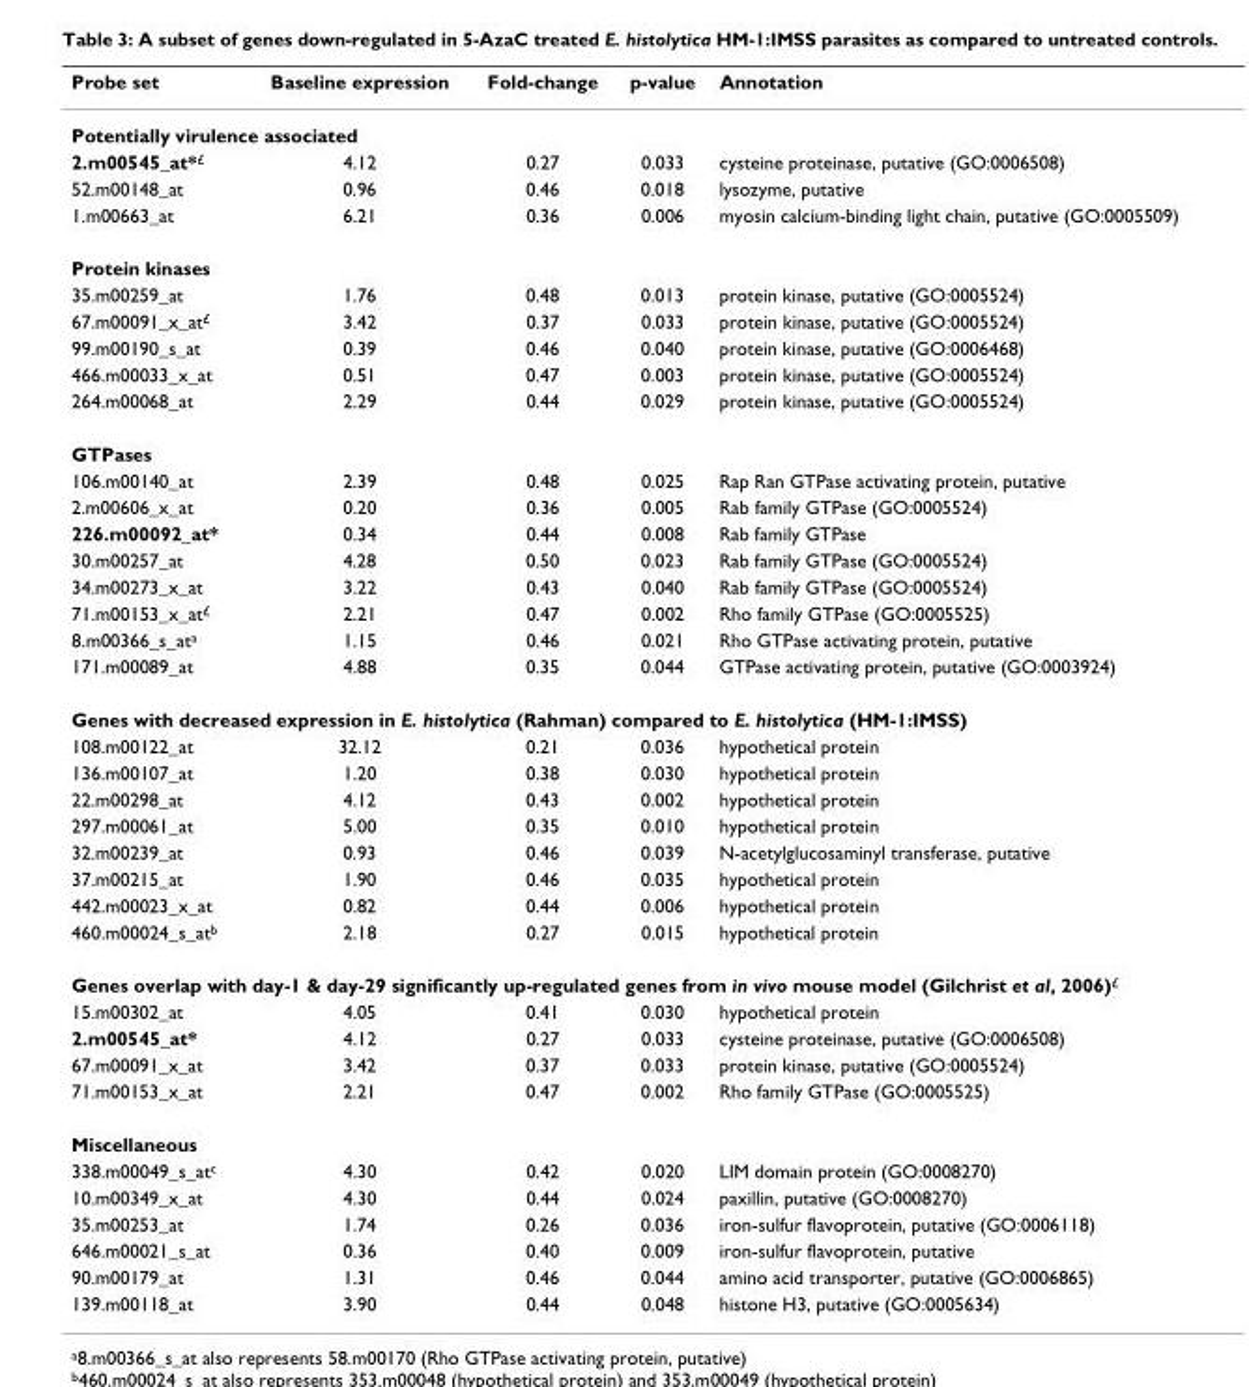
<table><thead><tr><td>Probe set</td><td>Baseline expression</td><td>Fold-change</td><td>p-value</td><td>Annotation</td></tr></thead><tbody><tr><td colspan="5">Potentially virulence associated</td></tr><tr><td>2.m00545_at*£</td><td>4.12</td><td>0.27</td><td>0.033</td><td>cysteine proteinase, putative (GO:0006508)</td></tr><tr><td>52.m00148_at</td><td>0.96</td><td>0.46</td><td>0.018</td><td>lysozyme, putative</td></tr><tr><td>1.m00663_at</td><td>6.21</td><td>0.36</td><td>0.006</td><td>myosin calcium-binding light chain, putative (GO:0005509)</td></tr><tr><td colspan="5">Protein kinases</td></tr><tr><td>35.m00259_at</td><td>1.76</td><td>0.48</td><td>0.013</td><td>protein kinase, putative (GO:0005524)</td></tr><tr><td>67.m00091_x_at£</td><td>3.42</td><td>0.37</td><td>0.033</td><td>protein kinase, putative (GO:0005524)</td></tr><tr><td>99.m00190_s_at</td><td>0.39</td><td>0.46</td><td>0.040</td><td>protein kinase, putative (GO:0006468)</td></tr><tr><td>466.m00033_x_at</td><td>0.51</td><td>0.47</td><td>0.003</td><td>protein kinase, putative (GO:0005524)</td></tr><tr><td>264.m00068_at</td><td>2.29</td><td>0.44</td><td>0.029</td><td>protein kinase, putative (GO:0005524)</td></tr><tr><td colspan="5">GTPases</td></tr><tr><td>106.m00140_at</td><td>2.39</td><td>0.48</td><td>0.025</td><td>Rap Ran GTPase activating protein, putative</td></tr><tr><td>2.m00606_x_at</td><td>0.20</td><td>0.36</td><td>0.005</td><td>Rab family GTPase (GO:0005524)</td></tr><tr><td>226.m00092_at*</td><td>0.34</td><td>0.44</td><td>0.008</td><td>Rab family GTPase</td></tr><tr><td>30.m00257_at</td><td>4.28</td><td>0.50</td><td>0.023</td><td>Rab family GTPase (GO:0005524)</td></tr><tr><td>34.m00273_x_at</td><td>3.22</td><td>0.43</td><td>0.040</td><td>Rab family GTPase (GO:0005524)</td></tr><tr><td>71.m00153_x_at£</td><td>2.21</td><td>0.47</td><td>0.002</td><td>Rho family GTPase (GO:0005525)</td></tr><tr><td>8.m00366_s_ata</td><td>1.15</td><td>0.46</td><td>0.021</td><td>Rho GTPase activating protein, putative</td></tr><tr><td>171.m00089_at</td><td>4.88</td><td>0.35</td><td>0.044</td><td>GTPase activating protein, putative (GO:0003924)</td></tr><tr><td colspan="5">Genes with decreased expression in E. histolytica (Rahman) compared to E. histolytica (HM-1:IMSS)</td></tr><tr><td>108.m00122_at</td><td>32.12</td><td>0.21</td><td>0.036</td><td>hypothetical protein</td></tr><tr><td>136.m00107_at</td><td>1.20</td><td>0.38</td><td>0.030</td><td>hypothetical protein</td></tr><tr><td>22.m00298_at</td><td>4.12</td><td>0.43</td><td>0.002</td><td>hypothetical protein</td></tr><tr><td>297.m00061_at</td><td>5.00</td><td>0.35</td><td>0.010</td><td>hypothetical protein</td></tr><tr><td>32.m00239_at</td><td>0.93</td><td>0.46</td><td>0.039</td><td>N-acetylglucosaminyl transferase, putative</td></tr><tr><td>37.m00215_at</td><td>1.90</td><td>0.46</td><td>0.035</td><td>hypothetical protein</td></tr><tr><td>442.m00023_x_at</td><td>0.82</td><td>0.44</td><td>0.006</td><td>hypothetical protein</td></tr><tr><td>460.m00024_s_atb</td><td>2.18</td><td>0.27</td><td>0.015</td><td>hypothetical protein</td></tr><tr><td colspan="5">Genes overlap with day-1 &amp; day-29 significantly up-regulated genes from in vivo mouse model (Gilchrist et al, 2006)£</td></tr><tr><td>15.m00302_at</td><td>4.05</td><td>0.41</td><td>0.030</td><td>hypothetical protein</td></tr><tr><td>2.m00545_at*</td><td>4.12</td><td>0.27</td><td>0.033</td><td>cysteine proteinase, putative (GO:0006508)</td></tr><tr><td>67.m00091_x_at</td><td>3.42</td><td>0.37</td><td>0.033</td><td>protein kinase, putative (GO:0005524)</td></tr><tr><td>71.m00153_x_at</td><td>2.21</td><td>0.47</td><td>0.002</td><td>Rho family GTPase (GO:0005525)</td></tr><tr><td colspan="5">Miscellaneous</td></tr><tr><td>338.m00049_s_atc</td><td>4.30</td><td>0.42</td><td>0.020</td><td>LIM domain protein (GO:0008270)</td></tr><tr><td>10.m00349_x_at</td><td>4.30</td><td>0.44</td><td>0.024</td><td>paxillin, putative (GO:0008270)</td></tr><tr><td>35.m00253_at</td><td>1.74</td><td>0.26</td><td>0.036</td><td>iron-sulfur flavoprotein, putative (GO:0006118)</td></tr><tr><td>646.m00021_s_at</td><td>0.36</td><td>0.40</td><td>0.009</td><td>iron-sulfur flavoprotein, putative</td></tr><tr><td>90.m00179_at</td><td>1.31</td><td>0.46</td><td>0.044</td><td>amino acid transporter, putative (GO:0006865)</td></tr><tr><td>139.m00118_at</td><td>3.90</td><td>0.44</td><td>0.048</td><td>histone H3, putative (GO:0005634)</td></tr></tbody></table>